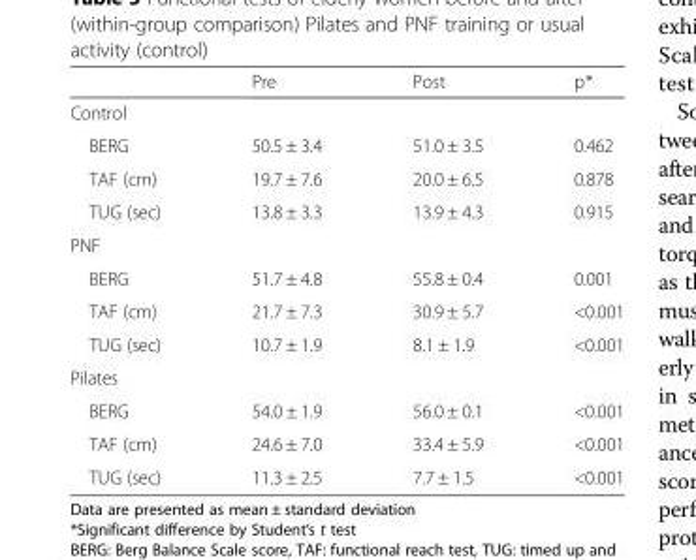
<table><thead><tr><td></td><td>Pre</td><td>Post</td><td>p*</td></tr></thead><tbody><tr><td colspan="4">Control</td></tr><tr><td>BERG</td><td>50.5 ± 3.4</td><td>51.0 ± 3.5</td><td>0.462</td></tr><tr><td>TAF (cm)</td><td>19.7 ± 7.6</td><td>20.0 ± 6.5</td><td>0.878</td></tr><tr><td>TUG (sec)</td><td>13.8 ± 3.3</td><td>13.9 ± 4.3</td><td>0.915</td></tr><tr><td colspan="4">PNF</td></tr><tr><td>BERG</td><td>51.7 ± 4.8</td><td>55.8 ± 0.4</td><td>0.001</td></tr><tr><td>TAF (cm)</td><td>21.7 ± 7.3</td><td>30.9 ± 5.7</td><td>&lt;0.001</td></tr><tr><td>TUG (sec)</td><td>10.7 ± 1.9</td><td>8.1 ± 1.9</td><td>&lt;0.001</td></tr><tr><td colspan="4">Pilates</td></tr><tr><td>BERG</td><td>54.0 ± 1.9</td><td>56.0 ± 0.1</td><td>&lt;0.001</td></tr><tr><td>TAF (cm)</td><td>24.6 ± 7.0</td><td>33.4 ± 5.9</td><td>&lt;0.001</td></tr><tr><td>TUG (sec)</td><td>11.3 ± 2.5</td><td>7.7 ± 1.5</td><td>&lt;0.001</td></tr></tbody></table>